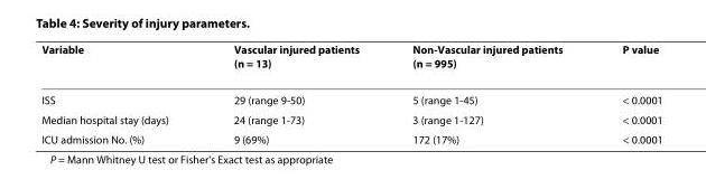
<table><thead><tr><td>Variable</td><td>Vascular injured patients (n = 13)</td><td>Non-Vascular injured patients (n = 995)</td><td>P value</td></tr></thead><tbody><tr><td>ISS</td><td>29 (range 9-50)</td><td>5 (range 1-45)</td><td>&lt; 0.0001</td></tr><tr><td>Median hospital stay (days)</td><td>24 (range 1-73)</td><td>3 (range 1-127)</td><td>&lt; 0.0001</td></tr><tr><td>ICU admission No. (%)</td><td>9 (69%)</td><td>172 (17%)</td><td>&lt; 0.0001</td></tr></tbody></table>